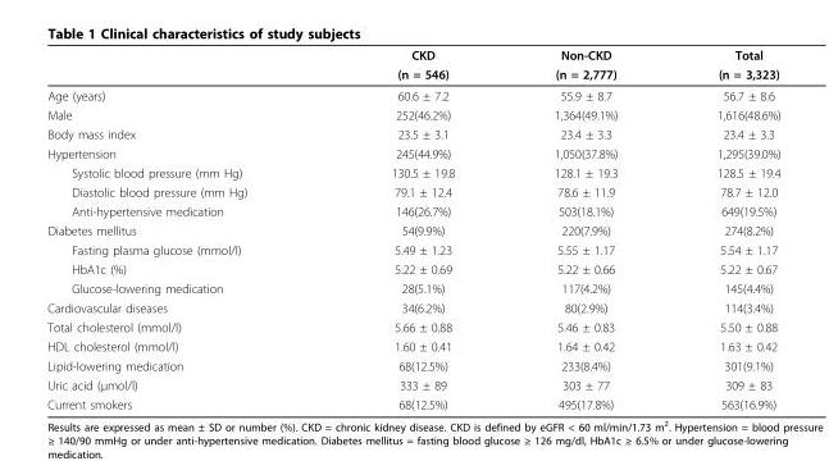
<table><thead><tr><td rowspan="2"></td><td rowspan="2">CKD (n = 546)</td><td rowspan="2">Non-CKD (n = 2,777)</td><td rowspan="2">Total (n = 3,323)</td></tr><tr></tr></thead><tbody><tr><td>Age (years)</td><td>60.6 ± 7.2</td><td>55.9 ± 8.7</td><td>56.7 ± 8.6</td></tr><tr><td>Male</td><td>252(46.2%)</td><td>1,364(49.1%)</td><td>1,616(48.6%)</td></tr><tr><td>Body mass index</td><td>23.5 ± 3.1</td><td>23.4 ± 3.3</td><td>23.4 ± 3.3</td></tr><tr><td>Hypertension</td><td>245(44.9%)</td><td>1,050(37.8%)</td><td>1,295(39.0%)</td></tr><tr><td>Systolic blood pressure (mm Hg)</td><td>130.5 ± 19.8</td><td>128.1 ± 19.3</td><td>128.5 ± 19.4</td></tr><tr><td>Diastolic blood pressure (mm Hg)</td><td>79.1 ± 12.4</td><td>78.6 ± 11.9</td><td>78.7 ± 12.0</td></tr><tr><td>Anti-hypertensive medication</td><td>146(26.7%)</td><td>503(18.1%)</td><td>649(19.5%)</td></tr><tr><td>Diabetes mellitus</td><td>54(9.9%)</td><td>220(7.9%)</td><td>274(8.2%)</td></tr><tr><td>Fasting plasma glucose (mmol/l)</td><td>5.49 ± 1.23</td><td>5.55 ± 1.17</td><td>5.54 ± 1.17</td></tr><tr><td>HbA1c (%)</td><td>5.22 ± 0.69</td><td>5.22 ± 0.66</td><td>5.22 ± 0.67</td></tr><tr><td>Glucose-lowering medication</td><td>28(5.1%)</td><td>117(4.2%)</td><td>145(4.4%)</td></tr><tr><td>Cardiovascular diseases</td><td>34(6.2%)</td><td>80(2.9%)</td><td>114(3.4%)</td></tr><tr><td>Total cholesterol (mmol/l)</td><td>5.66 ± 0.88</td><td>5.46 ± 0.83</td><td>5.50 ± 0.88</td></tr><tr><td>HDL cholesterol (mmol/l)</td><td>1.60 ± 0.41</td><td>1.64 ± 0.42</td><td>1.63 ± 0.42</td></tr><tr><td>Lipid-lowering medication</td><td>68(12.5%)</td><td>233(8.4%)</td><td>301(9.1%)</td></tr><tr><td>Uric acid (μmol/l)</td><td>333 ± 89</td><td>303 ± 77</td><td>309 ± 83</td></tr><tr><td>Current smokers</td><td>68(12.5%)</td><td>495(17.8%)</td><td>563(16.9%)</td></tr></tbody></table>